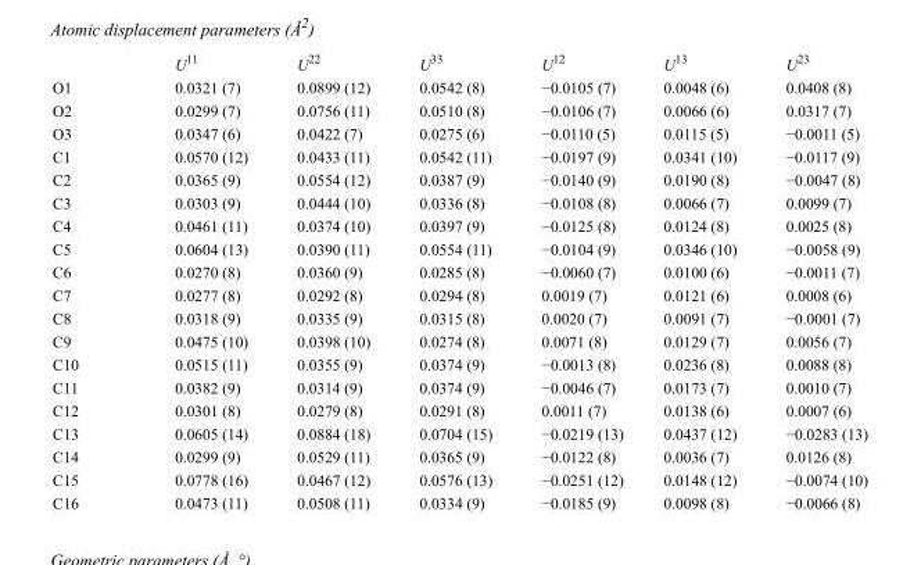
<table><thead><tr><td></td><td>U<sup>11</sup></td><td>U<sup>22</sup></td><td>U<sup>33</sup></td><td>U<sup>12</sup></td><td>U<sup>13</sup></td><td>U<sup>23</sup></td></tr></thead><tbody><tr><td>O1</td><td>0.0321 (7)</td><td>0.0899 (12)</td><td>0.0542 (8)</td><td>−0.0105 (7)</td><td>0.0048 (6)</td><td>0.0408 (8)</td></tr><tr><td>O2</td><td>0.0299 (7)</td><td>0.0756 (11)</td><td>0.0510 (8)</td><td>−0.0106 (7)</td><td>0.0066 (6)</td><td>0.0317 (7)</td></tr><tr><td>O3</td><td>0.0347 (6)</td><td>0.0422 (7)</td><td>0.0275 (6)</td><td>−0.0110 (5)</td><td>0.0115 (5)</td><td>−0.0011 (5)</td></tr><tr><td>C1</td><td>0.0570 (12)</td><td>0.0433 (11)</td><td>0.0542 (11)</td><td>−0.0197 (9)</td><td>0.0341 (10)</td><td>−0.0117 (9)</td></tr><tr><td>C2</td><td>0.0365 (9)</td><td>0.0554 (12)</td><td>0.0387 (9)</td><td>−0.0140 (9)</td><td>0.0190 (8)</td><td>−0.0047 (8)</td></tr><tr><td>C3</td><td>0.0303 (9)</td><td>0.0444 (10)</td><td>0.0336 (8)</td><td>−0.0108 (8)</td><td>0.0066 (7)</td><td>0.0099 (7)</td></tr><tr><td>C4</td><td>0.0461 (11)</td><td>0.0374 (10)</td><td>0.0397 (9)</td><td>−0.0125 (8)</td><td>0.0124 (8)</td><td>0.0025 (8)</td></tr><tr><td>C5</td><td>0.0604 (13)</td><td>0.0390 (11)</td><td>0.0554 (11)</td><td>−0.0104 (9)</td><td>0.0346 (10)</td><td>−0.0058 (9)</td></tr><tr><td>C6</td><td>0.0270 (8)</td><td>0.0360 (9)</td><td>0.0285 (8)</td><td>−0.0060 (7)</td><td>0.0100 (6)</td><td>−0.0011 (7)</td></tr><tr><td>C7</td><td>0.0277 (8)</td><td>0.0292 (8)</td><td>0.0294 (8)</td><td>0.0019 (7)</td><td>0.0121 (6)</td><td>0.0008 (6)</td></tr><tr><td>C8</td><td>0.0318 (9)</td><td>0.0335 (9)</td><td>0.0315 (8)</td><td>0.0020 (7)</td><td>0.0091 (7)</td><td>−0.0001 (7)</td></tr><tr><td>C9</td><td>0.0475 (10)</td><td>0.0398 (10)</td><td>0.0274 (8)</td><td>0.0071 (8)</td><td>0.0129 (7)</td><td>0.0056 (7)</td></tr><tr><td>C10</td><td>0.0515 (11)</td><td>0.0355 (9)</td><td>0.0374 (9)</td><td>−0.0013 (8)</td><td>0.0236 (8)</td><td>0.0088 (8)</td></tr><tr><td>C11</td><td>0.0382 (9)</td><td>0.0314 (9)</td><td>0.0374 (9)</td><td>−0.0046 (7)</td><td>0.0173 (7)</td><td>0.0010 (7)</td></tr><tr><td>C12</td><td>0.0301 (8)</td><td>0.0279 (8)</td><td>0.0291 (8)</td><td>0.0011 (7)</td><td>0.0138 (6)</td><td>0.0007 (6)</td></tr><tr><td>C13</td><td>0.0605 (14)</td><td>0.0884 (18)</td><td>0.0704 (15)</td><td>−0.0219 (13)</td><td>0.0437 (12)</td><td>−0.0283 (13)</td></tr><tr><td>C14</td><td>0.0299 (9)</td><td>0.0529 (11)</td><td>0.0365 (9)</td><td>−0.0122 (8)</td><td>0.0036 (7)</td><td>0.0126 (8)</td></tr><tr><td>C15</td><td>0.0778 (16)</td><td>0.0467 (12)</td><td>0.0576 (13)</td><td>−0.0251 (12)</td><td>0.0148 (12)</td><td>−0.0074 (10)</td></tr><tr><td>C16</td><td>0.0473 (11)</td><td>0.0508 (11)</td><td>0.0334 (9)</td><td>−0.0185 (9)</td><td>0.0098 (8)</td><td>−0.0066 (8)</td></tr></tbody></table>